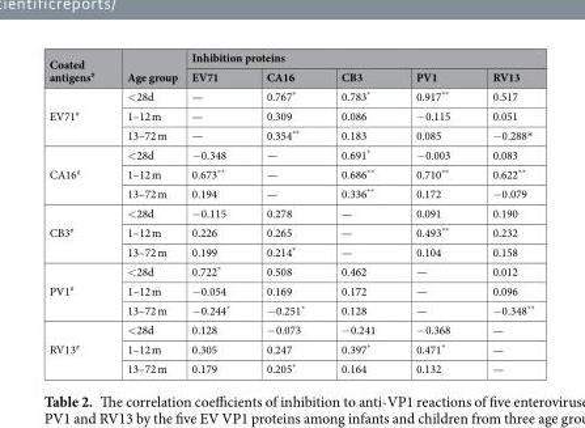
<table><thead><tr><td rowspan="2">Coated antigens<sup>#</sup></td><td rowspan="2">Age group</td><td colspan="5">Inhibition proteins</td></tr><tr><td>EV71</td><td>CA16</td><td>CB3</td><td>PV1</td><td>RV13</td></tr></thead><tbody><tr><td rowspan="3">EV71<sup>#</sup></td><td>&lt;28d</td><td>—</td><td>0.767*</td><td>0.783*</td><td>0.917**</td><td>0.517</td></tr><tr><td>1–12 m</td><td>—</td><td>0.309</td><td>0.086</td><td>−0.115</td><td>0.051</td></tr><tr><td>13–72 m</td><td>—</td><td>0.354**</td><td>0.183</td><td>0.085</td><td>−0.288*</td></tr><tr><td rowspan="3">CA16<sup>#</sup></td><td>&lt;28d</td><td>−0.348</td><td>—</td><td>0.691*</td><td>−0.003</td><td>0.083</td></tr><tr><td>1–12 m</td><td>0.673**</td><td>—</td><td>0.686**</td><td>0.710**</td><td>0.622**</td></tr><tr><td>13–72 m</td><td>0.194</td><td>—</td><td>0.336**</td><td>0.172</td><td>−0.079</td></tr><tr><td rowspan="3">CB3<sup>#</sup></td><td>&lt;28d</td><td>−0.115</td><td>0.278</td><td>—</td><td>0.091</td><td>0.190</td></tr><tr><td>1–12 m</td><td>0.226</td><td>0.265</td><td>—</td><td>0.493**</td><td>0.232</td></tr><tr><td>13–72 m</td><td>0.199</td><td>0.214*</td><td>—</td><td>0.104</td><td>0.158</td></tr><tr><td rowspan="3">PV1<sup>#</sup></td><td>&lt;28d</td><td>0.722*</td><td>0.508</td><td>0.462</td><td>—</td><td>0.012</td></tr><tr><td>1–12 m</td><td>−0.054</td><td>0.169</td><td>0.172</td><td>—</td><td>0.096</td></tr><tr><td>13–72 m</td><td>−0.244*</td><td>−0.251*</td><td>0.128</td><td>—</td><td>−0.348**</td></tr><tr><td rowspan="3">RV13<sup>#</sup></td><td>&lt;28d</td><td>0.128</td><td>−0.073</td><td>−0.241</td><td>−0.368</td><td>—</td></tr><tr><td>1–12 m</td><td>0.305</td><td>0.247</td><td>0.397*</td><td>0.471*</td><td>—</td></tr><tr><td>13–72 m</td><td>0.179</td><td>0.205*</td><td>0.164</td><td>0.132</td><td>—</td></tr></tbody></table>